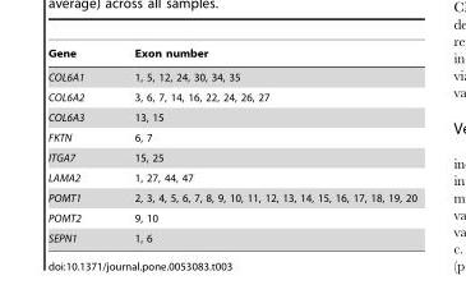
<table><thead><tr><td>Gene</td><td>Exon number</td></tr></thead><tbody><tr><td>COL6A1</td><td>1, 5, 12, 24, 30, 34, 35</td></tr><tr><td>COL6A2</td><td>3, 6, 7, 14, 16, 22, 24, 26, 27</td></tr><tr><td>COL6A3</td><td>13, 15</td></tr><tr><td>FKTN</td><td>6, 7</td></tr><tr><td>ITGA7</td><td>15, 25</td></tr><tr><td>LAMA2</td><td>1, 27, 44, 47</td></tr><tr><td>POMT1</td><td>2, 3, 4, 5, 6, 7, 8, 9, 10, 11, 12, 13, 14, 15, 16, 17, 18, 19, 20</td></tr><tr><td>POMT2</td><td>9, 10</td></tr><tr><td>SEPN1</td><td>1, 6</td></tr></tbody></table>